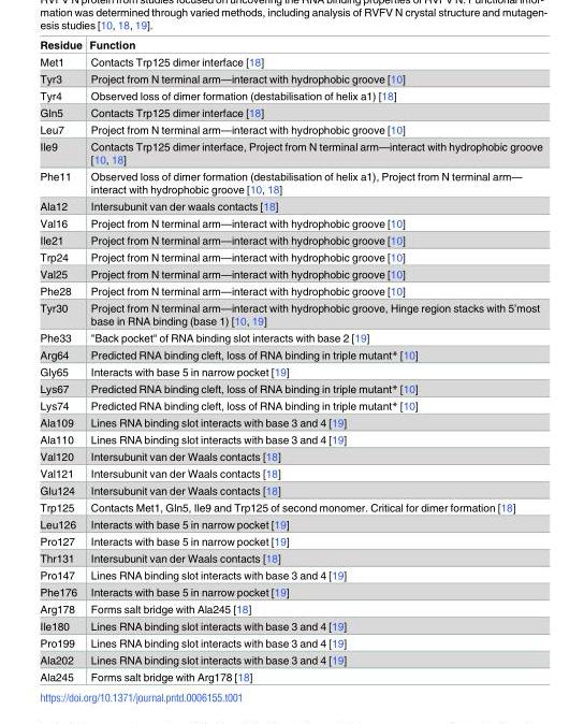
<table><thead><tr><td>Residue</td><td>Function</td></tr></thead><tbody><tr><td>Met1</td><td>Contacts Trp125 dimer interface [18]</td></tr><tr><td>Tyr3</td><td>Project from N terminal arm—interact with hydrophobic groove [10]</td></tr><tr><td>Tyr4</td><td>Observed loss of dimer formation (destabilisation of helix a1) [18]</td></tr><tr><td>Gln5</td><td>Contacts Trp125 dimer interface [18]</td></tr><tr><td>Leu7</td><td>Project from N terminal arm—interact with hydrophobic groove [10]</td></tr><tr><td>Ile9</td><td>Contacts Trp125 dimer interface, Project from N terminal arm—interact with hydrophobic groove [10, 18]</td></tr><tr><td>Phe11</td><td>Observed loss of dimer formation (destabilisation of helix a1), Project from N terminal arm— interact with hydrophobic groove [10, 18]</td></tr><tr><td>Ala12</td><td>Intersubunit van der waals contacts [18]</td></tr><tr><td>Val16</td><td>Project from N terminal arm—interact with hydrophobic groove [10]</td></tr><tr><td>Ile21</td><td>Project from N terminal arm—interact with hydrophobic groove [10]</td></tr><tr><td>Trp24</td><td>Project from N terminal arm—interact with hydrophobic groove [10]</td></tr><tr><td>Val25</td><td>Project from N terminal arm—interact with hydrophobic groove [10]</td></tr><tr><td>Phe28</td><td>Project from N terminal arm—interact with hydrophobic groove [10]</td></tr><tr><td>Tyr30</td><td>Project from N terminal arm—interact with hydrophobic groove, Hinge region stacks with 5’most base in RNA binding (base 1) [10, 19]</td></tr><tr><td>Phe33</td><td>&quot;Back pocket&quot; of RNA binding slot interacts with base 2 [19]</td></tr><tr><td>Arg64</td><td>Predicted RNA binding cleft, loss of RNA binding in triple mutant* [10]</td></tr><tr><td>Gly65</td><td>Interacts with base 5 in narrow pocket [19]</td></tr><tr><td>Lys67</td><td>Predicted RNA binding cleft, loss of RNA binding in triple mutant* [10]</td></tr><tr><td>Lys74</td><td>Predicted RNA binding cleft, loss of RNA binding in triple mutant* [10]</td></tr><tr><td>Ala109</td><td>Lines RNA binding slot interacts with base 3 and 4 [19]</td></tr><tr><td>Ala110</td><td>Lines RNA binding slot interacts with base 3 and 4 [19]</td></tr><tr><td>Val120</td><td>Intersubunit van der Waals contacts [18]</td></tr><tr><td>Val121</td><td>Intersubunit van der Waals contacts [18]</td></tr><tr><td>Glu124</td><td>Intersubunit van der Waals contacts [18]</td></tr><tr><td>Trp125</td><td>Contacts Met1, Gln5, Ile9 and Trp125 of second monomer. Critical for dimer formation [18]</td></tr><tr><td>Leu126</td><td>Interacts with base 5 in narrow pocket [19]</td></tr><tr><td>Pro127</td><td>Interacts with base 5 in narrow pocket [19]</td></tr><tr><td>Thr131</td><td>Intersubunit van der Waals contacts [18]</td></tr><tr><td>Pro147</td><td>Lines RNA binding slot interacts with base 3 and 4 [19]</td></tr><tr><td>Phe176</td><td>Interacts with base 5 in narrow pocket [19]</td></tr><tr><td>Arg178</td><td>Forms salt bridge with Ala245 [18]</td></tr><tr><td>Ile180</td><td>Lines RNA binding slot interacts with base 3 and 4 [19]</td></tr><tr><td>Pro199</td><td>Lines RNA binding slot interacts with base 3 and 4 [19]</td></tr><tr><td>Ala202</td><td>Lines RNA binding slot interacts with base 3 and 4 [19]</td></tr><tr><td>Ala245</td><td>Forms salt bridge with Arg178 [18]</td></tr></tbody></table>